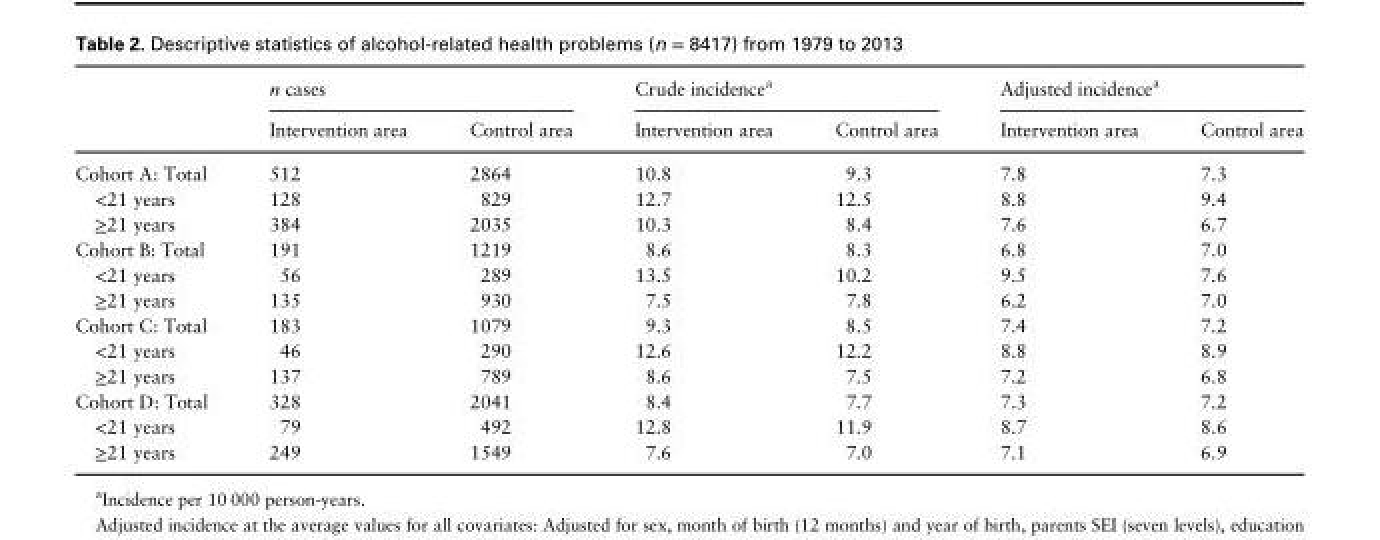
<table><thead><tr><td rowspan="2"></td><td colspan="2">n cases</td><td colspan="2">Crude incidence<sup>a</sup></td><td colspan="2">Adjusted incidence<sup>a</sup></td></tr><tr><td>Intervention area</td><td>Control area</td><td>Intervention area</td><td>Control area</td><td>Intervention area</td><td>Control area</td></tr></thead><tbody><tr><td>Cohort A: Total</td><td>512</td><td>2864</td><td>10.8</td><td>9.3</td><td>7.8</td><td>7.3</td></tr><tr><td>&lt;21 years</td><td>128</td><td>829</td><td>12.7</td><td>12.5</td><td>8.8</td><td>9.4</td></tr><tr><td>≥21 years</td><td>384</td><td>2035</td><td>10.3</td><td>8.4</td><td>7.6</td><td>6.7</td></tr><tr><td>Cohort B: Total</td><td>191</td><td>1219</td><td>8.6</td><td>8.3</td><td>6.8</td><td>7.0</td></tr><tr><td>&lt;21 years</td><td>56</td><td>289</td><td>13.5</td><td>10.2</td><td>9.5</td><td>7.6</td></tr><tr><td>≥21 years</td><td>135</td><td>930</td><td>7.5</td><td>7.8</td><td>6.2</td><td>7.0</td></tr><tr><td>Cohort C: Total</td><td>183</td><td>1079</td><td>9.3</td><td>8.5</td><td>7.4</td><td>7.2</td></tr><tr><td>&lt;21 years</td><td>46</td><td>290</td><td>12.6</td><td>12.2</td><td>8.8</td><td>8.9</td></tr><tr><td>≥21 years</td><td>137</td><td>789</td><td>8.6</td><td>7.5</td><td>7.2</td><td>6.8</td></tr><tr><td>Cohort D: Total</td><td>328</td><td>2041</td><td>8.4</td><td>7.7</td><td>7.3</td><td>7.2</td></tr><tr><td>&lt;21 years</td><td>79</td><td>492</td><td>12.8</td><td>11.9</td><td>8.7</td><td>8.6</td></tr><tr><td>≥21 years</td><td>249</td><td>1549</td><td>7.6</td><td>7.0</td><td>7.1</td><td>6.9</td></tr></tbody></table>